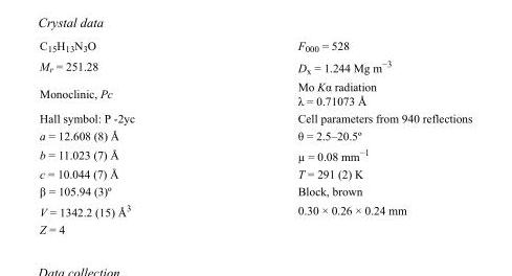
<table><tbody><tr><td>C<sub>15</sub>H<sub>13</sub>N<sub>3</sub>O</td><td>F<sub>000</sub> = 528</td></tr><tr><td>M<sub>r</sub> = 251.28</td><td>D<sub>x</sub> = 1.244 Mg m<sup>−3</sup></td></tr><tr><td>Monoclinic, Pc</td><td>Mo Kα radiation λ = 0.71073 Å</td></tr><tr><td>Hall symbol: P -2yc</td><td>Cell parameters from 940 reflections</td></tr><tr><td>a = 12.608 (8) Å</td><td>θ = 2.5–20.5º</td></tr><tr><td>b = 11.023 (7) Å</td><td>µ = 0.08 mm<sup>−1</sup></td></tr><tr><td>c = 10.044 (7) Å</td><td>T = 291 (2) K</td></tr><tr><td>β = 105.94 (3)º</td><td>Block, brown</td></tr><tr><td>V = 1342.2 (15) Å<sup>3</sup></td><td>0.30 × 0.26 × 0.24 mm</td></tr><tr><td>Z = 4</td><td></td></tr></tbody></table>